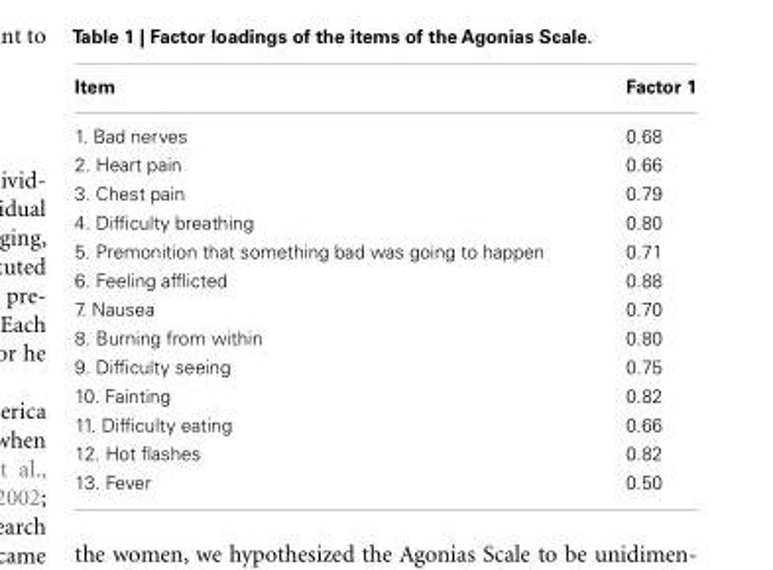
<table><thead><tr><td>Item</td><td>Factor 1</td></tr></thead><tbody><tr><td>1. Bad nerves</td><td>0.68</td></tr><tr><td>2. Heart pain</td><td>0.66</td></tr><tr><td>3. Chest pain</td><td>0.79</td></tr><tr><td>4. Difficulty breathing</td><td>0.80</td></tr><tr><td>5. Premonition that something bad was going to happen</td><td>0.71</td></tr><tr><td>6. Feeling afflicted</td><td>0.88</td></tr><tr><td>7. Nausea</td><td>0.70</td></tr><tr><td>8. Burning from within</td><td>0.80</td></tr><tr><td>9. Difficulty seeing</td><td>0.75</td></tr><tr><td>10. Fainting</td><td>0.82</td></tr><tr><td>11. Difficulty eating</td><td>0.66</td></tr><tr><td>12. Hot flashes</td><td>0.82</td></tr><tr><td>13. Fever</td><td>0.50</td></tr></tbody></table>